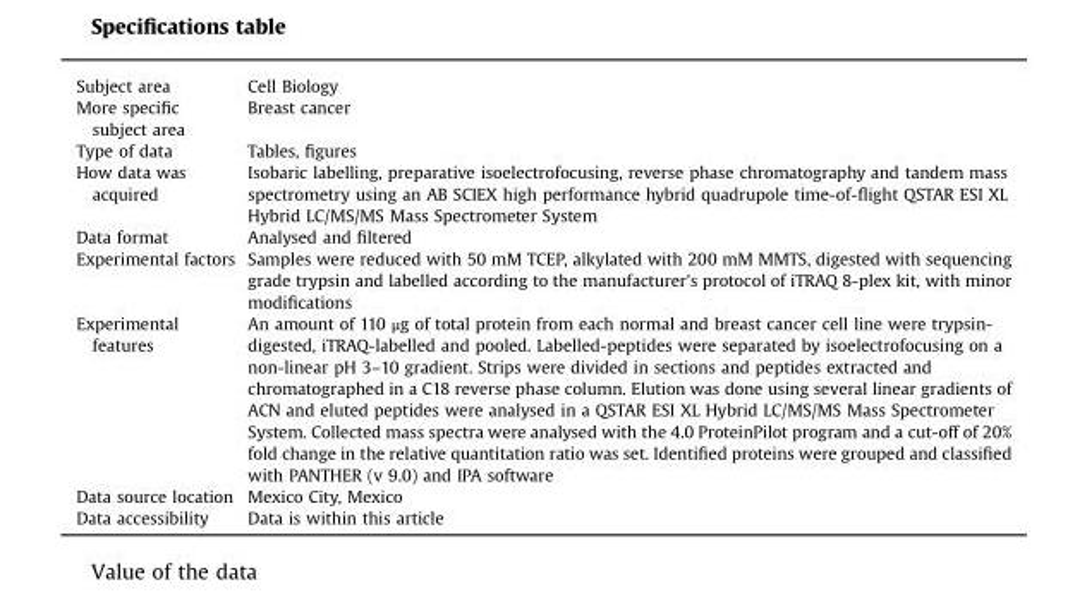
<table><tbody><tr><td>Subject area</td><td>Cell Biology</td></tr><tr><td>More specific subject area</td><td>Breast cancer</td></tr><tr><td>Type of data</td><td>Tables, figures</td></tr><tr><td>How data was acquired</td><td>Isobaric labelling, preparative isoelectrofocusing, reverse phase chromatography and tandem mass spectrometry using an AB SCIEX high performance hybrid quadrupole time-of-flight QSTAR ESI XL Hybrid LC/MS/MS Mass Spectrometer System</td></tr><tr><td>Data format</td><td>Analysed and filtered</td></tr><tr><td>Experimental factors</td><td>Samples were reduced with 50 mM TCEP, alkylated with 200 mM MMTS, digested with sequencing grade trypsin and labelled according to the manufacturer&#x27;s protocol of iTRAQ 8-plex kit, with minor modifications</td></tr><tr><td>Experimental features</td><td>An amount of 110 μg of total protein from each normal and breast cancer cell line were trypsin- digested, iTRAQ-labelled and pooled. Labelled-peptides were separated by isoelectrofocusing on a non-linear pH 3–10 gradient. Strips were divided in sections and peptides extracted and chromatographed in a C18 reverse phase column. Elution was done using several linear gradients of ACN and eluted peptides were analysed in a QSTAR ESI XL Hybrid LC/MS/MS Mass Spectrometer System. Collected mass spectra were analysed with the 4.0 ProteinPilot program and a cut-off of 20% fold change in the relative quantitation ratio was set. Identified proteins were grouped and classified with PANTHER (v 9.0) and IPA software</td></tr><tr><td>Data source location</td><td>Mexico City, Mexico</td></tr><tr><td>Data accessibility</td><td>Data is within this article</td></tr></tbody></table>